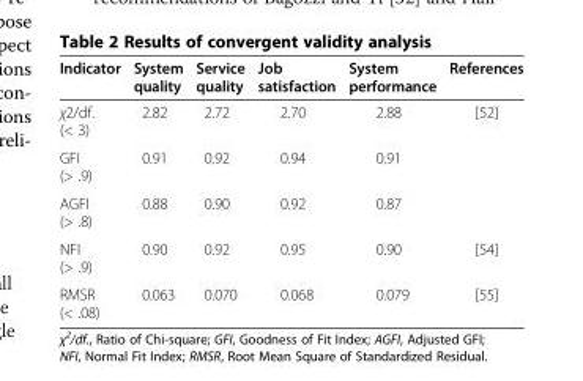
<table><thead><tr><td>Indicator</td><td>System quality</td><td>Service quality</td><td>Job satisfaction</td><td>System performance</td><td>References</td></tr></thead><tbody><tr><td>χ2/df. (&lt; 3)</td><td>2.82</td><td>2.72</td><td>2.70</td><td>2.88</td><td rowspan="3">[52]</td></tr><tr><td>GFI (&gt; .9)</td><td>0.91</td><td>0.92</td><td>0.94</td><td>0.91</td></tr><tr><td>AGFI (&gt; .8)</td><td>0.88</td><td>0.90</td><td>0.92</td><td>0.87</td></tr><tr><td>NFI (&gt; .9)</td><td>0.90</td><td>0.92</td><td>0.95</td><td>0.90</td><td>[54]</td></tr><tr><td>RMSR (&lt; .08)</td><td>0.063</td><td>0.070</td><td>0.068</td><td>0.079</td><td>[55]</td></tr></tbody></table>